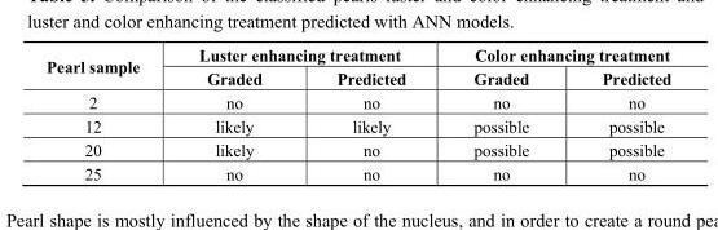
<table><thead><tr><td rowspan="2">Pearl sample</td><td colspan="2">Luster enhancing treatment</td><td colspan="2">Color enhancing treatment</td></tr><tr><td>Graded</td><td>Predicted</td><td>Graded</td><td>Predicted</td></tr></thead><tbody><tr><td>2</td><td>no</td><td>no</td><td>no</td><td>no</td></tr><tr><td>12</td><td>likely</td><td>likely</td><td>possible</td><td>possible</td></tr><tr><td>20</td><td>likely</td><td>no</td><td>possible</td><td>possible</td></tr><tr><td>25</td><td>no</td><td>no</td><td>no</td><td>no</td></tr></tbody></table>